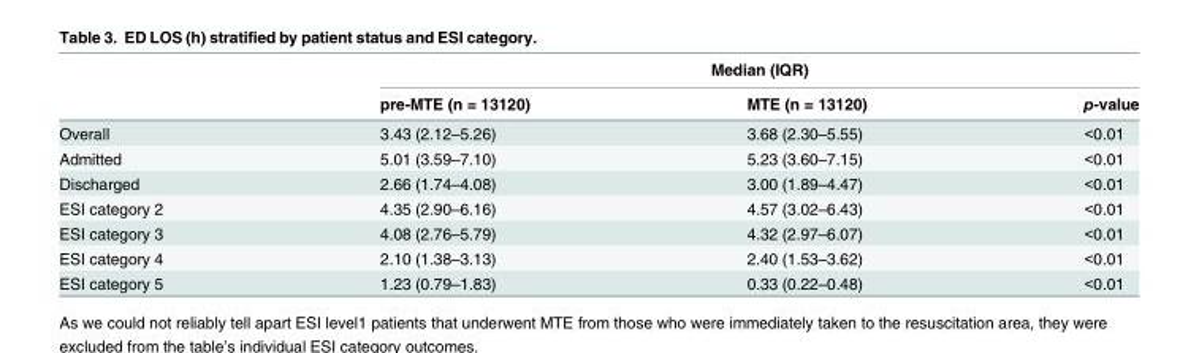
<table><thead><tr><td rowspan="2"></td><td colspan="3">Median (IQR)</td></tr><tr><td>pre-MTE (n = 13120)</td><td>MTE (n = 13120)</td><td>p-value</td></tr></thead><tbody><tr><td>Overall</td><td>3.43 (2.12–5.26)</td><td>3.68 (2.30–5.55)</td><td>&lt;0.01</td></tr><tr><td>Admitted</td><td>5.01 (3.59–7.10)</td><td>5.23 (3.60–7.15)</td><td>&lt;0.01</td></tr><tr><td>Discharged</td><td>2.66 (1.74–4.08)</td><td>3.00 (1.89–4.47)</td><td>&lt;0.01</td></tr><tr><td>ESI category 2</td><td>4.35 (2.90–6.16)</td><td>4.57 (3.02–6.43)</td><td>&lt;0.01</td></tr><tr><td>ESI category 3</td><td>4.08 (2.76–5.79)</td><td>4.32 (2.97–6.07)</td><td>&lt;0.01</td></tr><tr><td>ESI category 4</td><td>2.10 (1.38–3.13)</td><td>2.40 (1.53–3.62)</td><td>&lt;0.01</td></tr><tr><td>ESI category 5</td><td>1.23 (0.79–1.83)</td><td>0.33 (0.22–0.48)</td><td>&lt;0.01</td></tr></tbody></table>